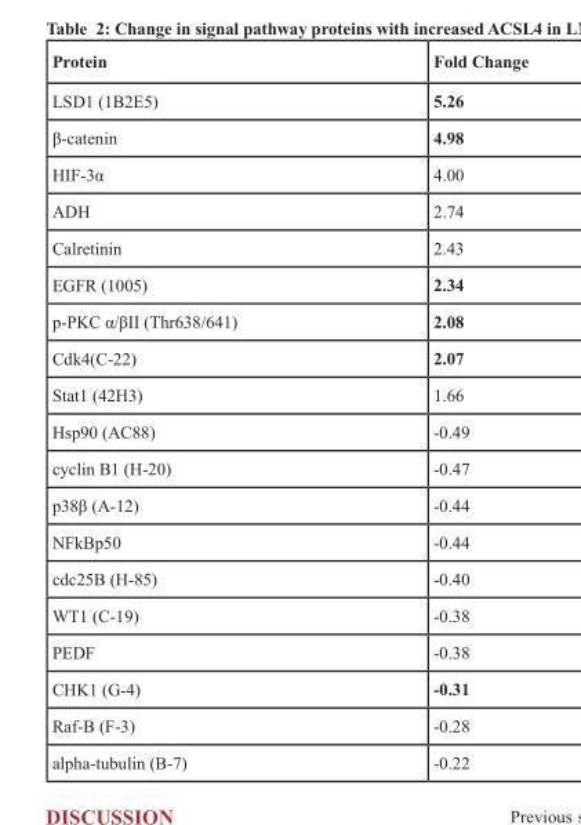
<table><thead><tr><td>Protein</td><td>Fold Change</td></tr></thead><tbody><tr><td>LSD1 (1B2E5)</td><td>5.26</td></tr><tr><td>β-catenin</td><td>4.98</td></tr><tr><td>HIF-3α</td><td>4.00</td></tr><tr><td>ADH</td><td>2.74</td></tr><tr><td>Calretinin</td><td>2.43</td></tr><tr><td>EGFR (1005)</td><td>2.34</td></tr><tr><td>p-PKC α/βII (Thr638/641)</td><td>2.08</td></tr><tr><td>Cdk4(C-22)</td><td>2.07</td></tr><tr><td>Stat1 (42H3)</td><td>1.66</td></tr><tr><td>Hsp90 (AC88)</td><td>-0.49</td></tr><tr><td>cyclin B1 (H-20)</td><td>-0.47</td></tr><tr><td>p38β (A-12)</td><td>-0.44</td></tr><tr><td>NFkBp50</td><td>-0.44</td></tr><tr><td>cdc25B (H-85)</td><td>-0.40</td></tr><tr><td>WT1 (C-19)</td><td>-0.38</td></tr><tr><td>PEDF</td><td>-0.38</td></tr><tr><td>CHK1 (G-4)</td><td>-0.31</td></tr><tr><td>Raf-B (F-3)</td><td>-0.28</td></tr><tr><td>alpha-tubulin (B-7)</td><td>-0.22</td></tr></tbody></table>